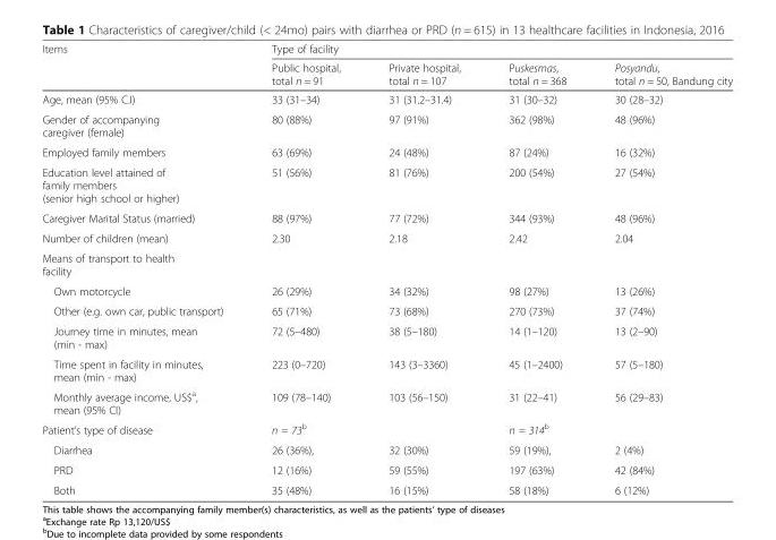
<table><thead><tr><td rowspan="2">Items</td><td colspan="4">Type of facility</td></tr><tr><td>Public hospital, total n = 91</td><td>Private hospital, total n = 107</td><td>Puskesmas, total n = 368</td><td>Posyandu, total n = 50, Bandung city</td></tr></thead><tbody><tr><td>Age, mean (95% C.I)</td><td>33 (31–34)</td><td>31 (31.2–31.4)</td><td>31 (30–32)</td><td>30 (28–32)</td></tr><tr><td>Gender of accompanying caregiver (female)</td><td>80 (88%)</td><td>97 (91%)</td><td>362 (98%)</td><td>48 (96%)</td></tr><tr><td>Employed family members</td><td>63 (69%)</td><td>24 (48%)</td><td>87 (24%)</td><td>16 (32%)</td></tr><tr><td>Education level attained of family members (senior high school or higher)</td><td>51 (56%)</td><td>81 (76%)</td><td>200 (54%)</td><td>27 (54%)</td></tr><tr><td>Caregiver Marital Status (married)</td><td>88 (97%)</td><td>77 (72%)</td><td>344 (93%)</td><td>48 (96%)</td></tr><tr><td>Number of children (mean)</td><td>2.30</td><td>2.18</td><td>2.42</td><td>2.04</td></tr><tr><td colspan="5">Means of transport to health facility</td></tr><tr><td>Own motorcycle</td><td>26 (29%)</td><td>34 (32%)</td><td>98 (27%)</td><td>13 (26%)</td></tr><tr><td>Other (e.g. own car, public transport)</td><td>65 (71%)</td><td>73 (68%)</td><td>270 (73%)</td><td>37 (74%)</td></tr><tr><td>Journey time in minutes, mean (min - max)</td><td>72 (5–480)</td><td>38 (5–180)</td><td>14 (1–120)</td><td>13 (2–90)</td></tr><tr><td>Time spent in facility in minutes, mean (min - max)</td><td>223 (0–720)</td><td>143 (3–3360)</td><td>45 (1–2400)</td><td>57 (5–180)</td></tr><tr><td>Monthly average income, US$<sup>a</sup>, mean (95% CI)</td><td>109 (78–140)</td><td>103 (56–150)</td><td>31 (22–41)</td><td>56 (29–83)</td></tr><tr><td>Patient’s type of disease</td><td>n = 73<sup>b</sup></td><td></td><td>n = 314<sup>b</sup></td><td></td></tr><tr><td>Diarrhea</td><td>26 (36%),</td><td>32 (30%)</td><td>59 (19%),</td><td>2 (4%)</td></tr><tr><td>PRD</td><td>12 (16%)</td><td>59 (55%)</td><td>197 (63%)</td><td>42 (84%)</td></tr><tr><td>Both</td><td>35 (48%)</td><td>16 (15%)</td><td>58 (18%)</td><td>6 (12%)</td></tr></tbody></table>